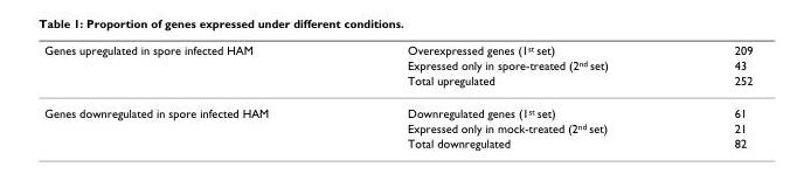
<table><thead><tr><td rowspan="3">Genes upregulated in spore infected HAM</td><td rowspan="3">Overexpressed genes (1<sup>st</sup> set) Expressed only in spore-treated (2<sup>nd</sup> set) Total upregulated</td><td rowspan="3">209 43 252</td></tr><tr></tr><tr></tr></thead><tbody><tr><td rowspan="3">Genes downregulated in spore infected HAM</td><td>Downregulated genes (1<sup>st</sup> set)</td><td>61</td></tr><tr><td>Expressed only in mock-treated (2<sup>nd</sup> set)</td><td>21</td></tr><tr><td>Total downregulated</td><td>82</td></tr></tbody></table>